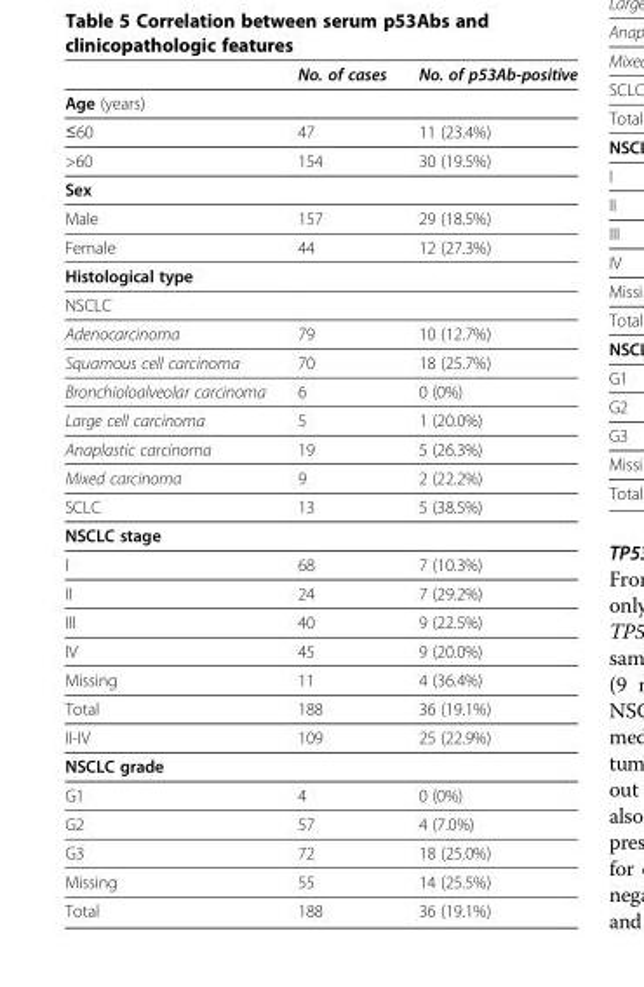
<table><thead><tr><td></td><td>No. of cases</td><td>No. of p53Ab-positive</td></tr></thead><tbody><tr><td colspan="3">Age (years)</td></tr><tr><td>≤60</td><td>47</td><td>11 (23.4%)</td></tr><tr><td>&gt;60</td><td>154</td><td>30 (19.5%)</td></tr><tr><td colspan="3">Sex</td></tr><tr><td>Male</td><td>157</td><td>29 (18.5%)</td></tr><tr><td>Female</td><td>44</td><td>12 (27.3%)</td></tr><tr><td colspan="3">Histological type</td></tr><tr><td colspan="3">NSCLC</td></tr><tr><td>Adenocarcinoma</td><td>79</td><td>10 (12.7%)</td></tr><tr><td>Squamous cell carcinoma</td><td>70</td><td>18 (25.7%)</td></tr><tr><td>Bronchioloalveolar carcinoma</td><td>6</td><td>0 (0%)</td></tr><tr><td>Large cell carcinoma</td><td>5</td><td>1 (20.0%)</td></tr><tr><td>Anaplastic carcinoma</td><td>19</td><td>5 (26.3%)</td></tr><tr><td>Mixed carcinoma</td><td>9</td><td>2 (22.2%)</td></tr><tr><td>SCLC</td><td>13</td><td>5 (38.5%)</td></tr><tr><td colspan="3">NSCLC stage</td></tr><tr><td>I</td><td>68</td><td>7 (10.3%)</td></tr><tr><td>II</td><td>24</td><td>7 (29.2%)</td></tr><tr><td>III</td><td>40</td><td>9 (22.5%)</td></tr><tr><td>IV</td><td>45</td><td>9 (20.0%)</td></tr><tr><td>Missing</td><td>11</td><td>4 (36.4%)</td></tr><tr><td>Total</td><td>188</td><td>36 (19.1%)</td></tr><tr><td>II-IV</td><td>109</td><td>25 (22.9%)</td></tr><tr><td colspan="3">NSCLC grade</td></tr><tr><td>G1</td><td>4</td><td>0 (0%)</td></tr><tr><td>G2</td><td>57</td><td>4 (7.0%)</td></tr><tr><td>G3</td><td>72</td><td>18 (25.0%)</td></tr><tr><td>Missing</td><td>55</td><td>14 (25.5%)</td></tr><tr><td>Total</td><td>188</td><td>36 (19.1%)</td></tr></tbody></table>